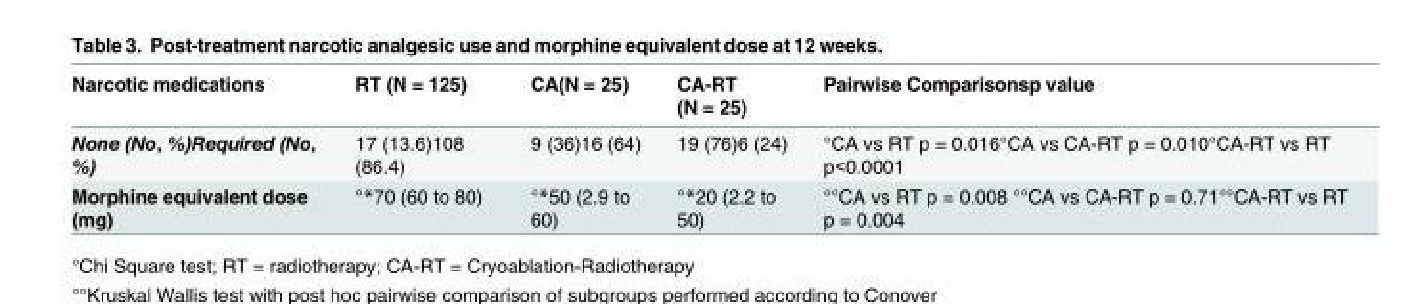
<table><thead><tr><td>Narcotic medications</td><td>RT (N = 125)</td><td>CA(N = 25)</td><td>CA-RT (N = 25)</td><td>Pairwise Comparisonsp value</td></tr></thead><tbody><tr><td>None (No, %)Required (No, %)</td><td>17 (13.6)108 (86.4)</td><td>9 (36)16 (64)</td><td>19 (76)6 (24)</td><td>°CA vs RT p = 0.016°CA vs CA-RT p = 0.010°CA-RT vs RT p&lt;0.0001</td></tr><tr><td>Morphine equivalent dose (mg)</td><td>°*70 (60 to 80)</td><td>°*50 (2.9 to 60)</td><td>°*20 (2.2 to 50)</td><td>°°CA vs RT p = 0.008 °°CA vs CA-RT p = 0.71°°CA-RT vs RT p = 0.004</td></tr></tbody></table>